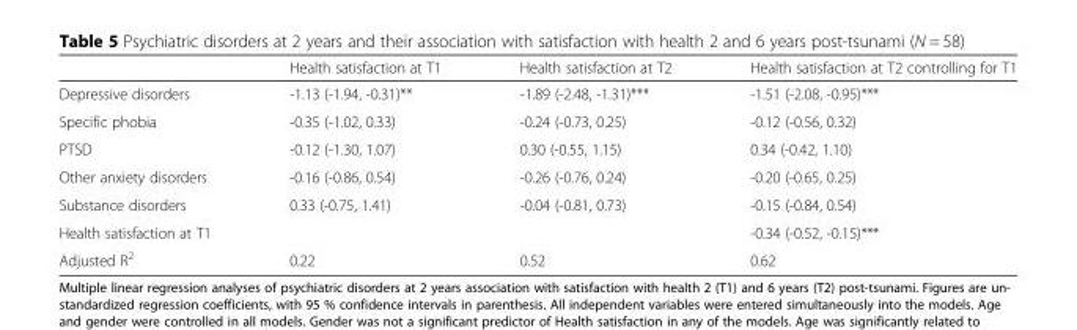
<table><thead><tr><td></td><td>Health satisfaction at T1</td><td>Health satisfaction at T2</td><td>Health satisfaction at T2 controlling for T1</td></tr></thead><tbody><tr><td>Depressive disorders</td><td>-1.13 (-1.94, -0.31)**</td><td>-1.89 (-2.48, -1.31)***</td><td>-1.51 (-2.08, -0.95)***</td></tr><tr><td>Specific phobia</td><td>-0.35 (-1.02, 0.33)</td><td>-0.24 (-0.73, 0.25)</td><td>-0.12 (-0.56, 0.32)</td></tr><tr><td>PTSD</td><td>-0.12 (-1.30, 1.07)</td><td>0.30 (-0.55, 1.15)</td><td>0.34 (-0.42, 1.10)</td></tr><tr><td>Other anxiety disorders</td><td>-0.16 (-0.86, 0.54)</td><td>-0.26 (-0.76, 0.24)</td><td>-0.20 (-0.65, 0.25)</td></tr><tr><td>Substance disorders</td><td>0.33 (-0.75, 1.41)</td><td>-0.04 (-0.81, 0.73)</td><td>-0.15 (-0.84, 0.54)</td></tr><tr><td>Health satisfaction at T1</td><td></td><td></td><td>-0.34 (-0.52, -0.15)***</td></tr><tr><td>Adjusted R<sup>2</sup></td><td>0.22</td><td>0.52</td><td>0.62</td></tr></tbody></table>